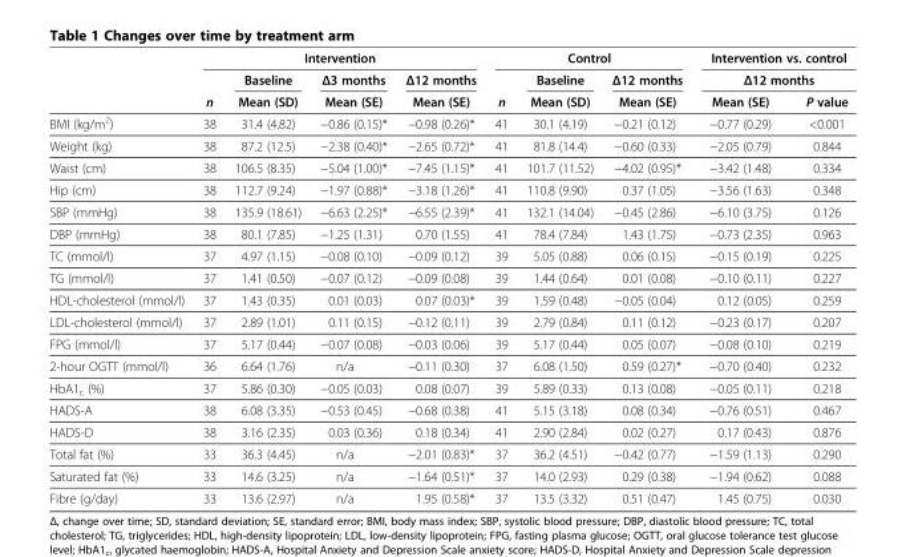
<table><thead><tr><td rowspan="3"></td><td colspan="4">Intervention</td><td colspan="3">Control</td><td rowspan="2" colspan="2">Intervention vs. control Δ12 months</td></tr><tr><td rowspan="2">n</td><td rowspan="2">Baseline Mean (SD)</td><td rowspan="2">Δ3 months Mean (SE)</td><td rowspan="2">Δ12 months Mean (SE)</td><td rowspan="2">n</td><td rowspan="2">Baseline Mean (SD)</td><td rowspan="2">Δ12 months Mean (SE)</td></tr><tr><td>Mean (SE)</td><td>P value</td></tr></thead><tbody><tr><td>BMI (kg/m<sup>2</sup>)</td><td>38</td><td>31.4 (4.82)</td><td>−0.86 (0.15)*</td><td>−0.98 (0.26)*</td><td>41</td><td>30.1 (4.19)</td><td>−0.21 (0.12)</td><td>−0.77 (0.29)</td><td>&lt;0.001</td></tr><tr><td>Weight (kg)</td><td>38</td><td>87.2 (12.5)</td><td>−2.38 (0.40)*</td><td>−2.65 (0.72)*</td><td>41</td><td>81.8 (14.4)</td><td>−0.60 (0.33)</td><td>−2.05 (0.79)</td><td>0.844</td></tr><tr><td>Waist (cm)</td><td>38</td><td>106.5 (8.35)</td><td>−5.04 (1.00)*</td><td>−7.45 (1.15)*</td><td>41</td><td>101.7 (11.52)</td><td>−4.02 (0.95)*</td><td>−3.42 (1.48)</td><td>0.334</td></tr><tr><td>Hip (cm)</td><td>38</td><td>112.7 (9.24)</td><td>−1.97 (0.88)*</td><td>−3.18 (1.26)*</td><td>41</td><td>110.8 (9.90)</td><td>0.37 (1.05)</td><td>−3.56 (1.63)</td><td>0.348</td></tr><tr><td>SBP (mmHg)</td><td>38</td><td>135.9 (18.61)</td><td>−6.63 (2.25)*</td><td>−6.55 (2.39)*</td><td>41</td><td>132.1 (14.04)</td><td>−0.45 (2.86)</td><td>−6.10 (3.75)</td><td>0.126</td></tr><tr><td>DBP (mmHg)</td><td>38</td><td>80.1 (7.85)</td><td>−1.25 (1.31)</td><td>0.70 (1.55)</td><td>41</td><td>78.4 (7.84)</td><td>1.43 (1.75)</td><td>−0.73 (2.35)</td><td>0.963</td></tr><tr><td>TC (mmol/l)</td><td>37</td><td>4.97 (1.15)</td><td>−0.08 (0.10)</td><td>−0.09 (0.12)</td><td>39</td><td>5.05 (0.88)</td><td>0.06 (0.15)</td><td>−0.15 (0.19)</td><td>0.225</td></tr><tr><td>TG (mmol/l)</td><td>37</td><td>1.41 (0.50)</td><td>−0.07 (0.12)</td><td>−0.09 (0.08)</td><td>39</td><td>1.44 (0.64)</td><td>0.01 (0.08)</td><td>−0.10 (0.11)</td><td>0.227</td></tr><tr><td>HDL-cholesterol (mmol/l)</td><td>37</td><td>1.43 (0.35)</td><td>0.01 (0.03)</td><td>0.07 (0.03)*</td><td>39</td><td>1.59 (0.48)</td><td>−0.05 (0.04)</td><td>0.12 (0.05)</td><td>0.259</td></tr><tr><td>LDL-cholesterol (mmol/l)</td><td>37</td><td>2.89 (1.01)</td><td>0.11 (0.15)</td><td>−0.12 (0.11)</td><td>39</td><td>2.79 (0.84)</td><td>0.11 (0.12)</td><td>−0.23 (0.17)</td><td>0.207</td></tr><tr><td>FPG (mmol/l)</td><td>37</td><td>5.17 (0.44)</td><td>−0.07 (0.08)</td><td>−0.03 (0.06)</td><td>39</td><td>5.17 (0.44)</td><td>0.05 (0.07)</td><td>−0.08 (0.10)</td><td>0.219</td></tr><tr><td>2-hour OGTT (mmol/l)</td><td>36</td><td>6.64 (1.76)</td><td>n/a</td><td>−0.11 (0.30)</td><td>37</td><td>6.08 (1.50)</td><td>0.59 (0.27)*</td><td>−0.70 (0.40)</td><td>0.232</td></tr><tr><td>HbA1<sub>c</sub> (%)</td><td>37</td><td>5.86 (0.30)</td><td>−0.05 (0.03)</td><td>0.08 (0.07)</td><td>39</td><td>5.89 (0.33)</td><td>0.13 (0.08)</td><td>−0.05 (0.11)</td><td>0.218</td></tr><tr><td>HADS-A</td><td>38</td><td>6.08 (3.35)</td><td>−0.53 (0.45)</td><td>−0.68 (0.38)</td><td>41</td><td>5.15 (3.18)</td><td>0.08 (0.34)</td><td>−0.76 (0.51)</td><td>0.467</td></tr><tr><td>HADS-D</td><td>38</td><td>3.16 (2.35)</td><td>0.03 (0.36)</td><td>0.18 (0.34)</td><td>41</td><td>2.90 (2.84)</td><td>0.02 (0.27)</td><td>0.17 (0.43)</td><td>0.876</td></tr><tr><td>Total fat (%)</td><td>33</td><td>36.3 (4.45)</td><td>n/a</td><td>−2.01 (0.83)*</td><td>37</td><td>36.2 (4.51)</td><td>−0.42 (0.77)</td><td>−1.59 (1.13)</td><td>0.290</td></tr><tr><td>Saturated fat (%)</td><td>33</td><td>14.6 (3.25)</td><td>n/a</td><td>−1.64 (0.51)*</td><td>37</td><td>14.0 (2.93)</td><td>0.29 (0.38)</td><td>−1.94 (0.62)</td><td>0.088</td></tr><tr><td>Fibre (g/day)</td><td>33</td><td>13.6 (2.97)</td><td>n/a</td><td>1.95 (0.58)*</td><td>37</td><td>13.5 (3.32)</td><td>0.51 (0.47)</td><td>1.45 (0.75)</td><td>0.030</td></tr></tbody></table>